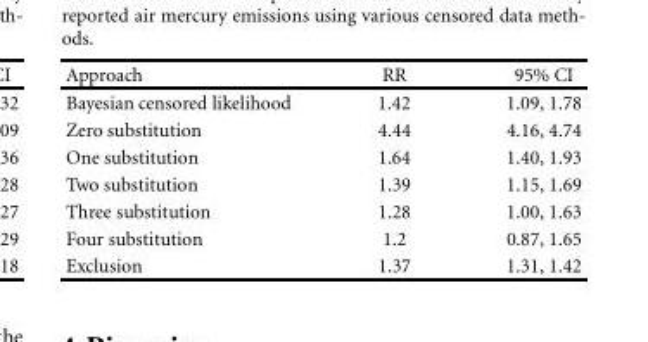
<table><thead><tr><td>Approach</td><td>RR</td><td>95% CI</td></tr></thead><tbody><tr><td>Bayesian censored likelihood</td><td>1.42</td><td>1.09, 1.78</td></tr><tr><td>Zero substitution</td><td>4.44</td><td>4.16, 4.74</td></tr><tr><td>One substitution</td><td>1.64</td><td>1.40, 1.93</td></tr><tr><td>Two substitution</td><td>1.39</td><td>1.15, 1.69</td></tr><tr><td>Three substitution</td><td>1.28</td><td>1.00, 1.63</td></tr><tr><td>Four substitution</td><td>1.2</td><td>0.87, 1.65</td></tr><tr><td>Exclusion</td><td>1.37</td><td>1.31, 1.42</td></tr></tbody></table>